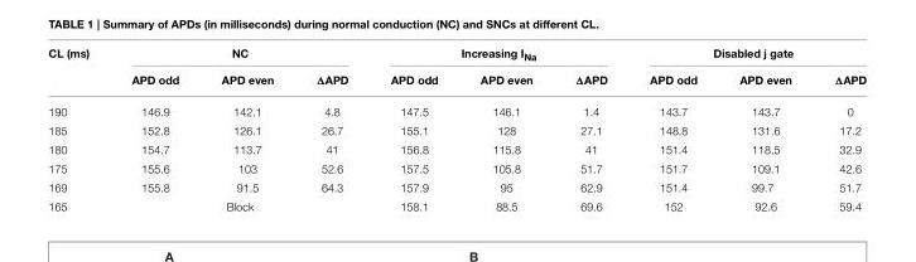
<table><thead><tr><td rowspan="2">CL (ms)</td><td colspan="3">NC</td><td colspan="3">Increasing I<sub>Na</sub></td><td colspan="3">Disabled j gate</td></tr><tr><td>APD odd</td><td>APD even</td><td>ΔAPD</td><td>APD odd</td><td>APD even</td><td>ΔAPD</td><td>APD odd</td><td>APD even</td><td>ΔAPD</td></tr></thead><tbody><tr><td>190</td><td>146.9</td><td>142.1</td><td>4.8</td><td>147.5</td><td>146.1</td><td>1.4</td><td>143.7</td><td>143.7</td><td>0</td></tr><tr><td>185</td><td>152.8</td><td>126.1</td><td>26.7</td><td>155.1</td><td>128</td><td>27.1</td><td>148.8</td><td>131.6</td><td>17.2</td></tr><tr><td>180</td><td>154.7</td><td>113.7</td><td>41</td><td>156.8</td><td>115.8</td><td>41</td><td>151.4</td><td>118.5</td><td>32.9</td></tr><tr><td>175</td><td>155.6</td><td>103</td><td>52.6</td><td>157.5</td><td>105.8</td><td>51.7</td><td>151.7</td><td>109.1</td><td>42.6</td></tr><tr><td>169</td><td>155.8</td><td>91.5</td><td>64.3</td><td>157.9</td><td>95</td><td>62.9</td><td>151.4</td><td>99.7</td><td>51.7</td></tr><tr><td>165</td><td colspan="3">Block</td><td>158.1</td><td>88.5</td><td>69.6</td><td>152</td><td>92.6</td><td>59.4</td></tr></tbody></table>